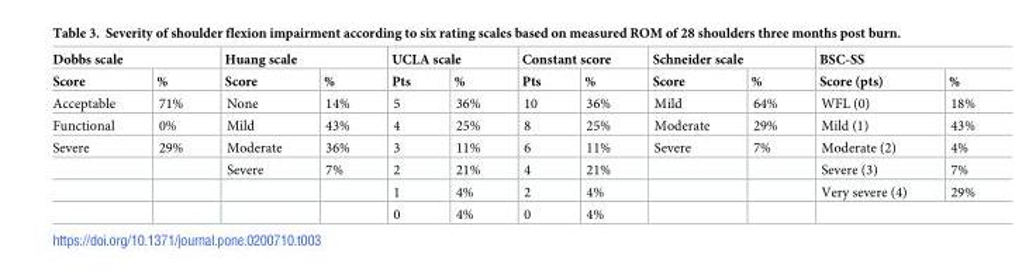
<table><thead><tr><td colspan="2">Dobbs scale</td><td colspan="2">Huang scale</td><td colspan="2">UCLA scale</td><td colspan="2">Constant score</td><td colspan="2">Schneider scale</td><td colspan="2">BSC-SS</td></tr><tr><td>Score</td><td>%</td><td>Score</td><td>%</td><td>Pts</td><td>%</td><td>Pts</td><td>%</td><td>Score</td><td>%</td><td>Score (pts)</td><td>%</td></tr></thead><tbody><tr><td>Acceptable</td><td>71%</td><td>None</td><td>14%</td><td>5</td><td>36%</td><td>10</td><td>36%</td><td>Mild</td><td>64%</td><td>WFL (0)</td><td>18%</td></tr><tr><td>Functional</td><td>0%</td><td>Mild</td><td>43%</td><td>4</td><td>25%</td><td>8</td><td>25%</td><td>Moderate</td><td>29%</td><td>Mild (1)</td><td>43%</td></tr><tr><td rowspan="4">Severe</td><td>29%</td><td>Moderate</td><td>36%</td><td>3</td><td>11%</td><td>6</td><td>11%</td><td>Severe</td><td>7%</td><td>Moderate (2)</td><td>4%</td></tr><tr><td></td><td>Severe</td><td>7%</td><td>2</td><td>21%</td><td>4</td><td>21%</td><td></td><td></td><td>Severe (3)</td><td>7%</td></tr><tr><td></td><td></td><td></td><td>1</td><td>4%</td><td>2</td><td>4%</td><td></td><td></td><td>Very severe (4)</td><td>29%</td></tr><tr><td></td><td></td><td></td><td>0</td><td>4%</td><td>0</td><td>4%</td><td></td><td></td><td colspan="2"></td></tr></tbody></table>